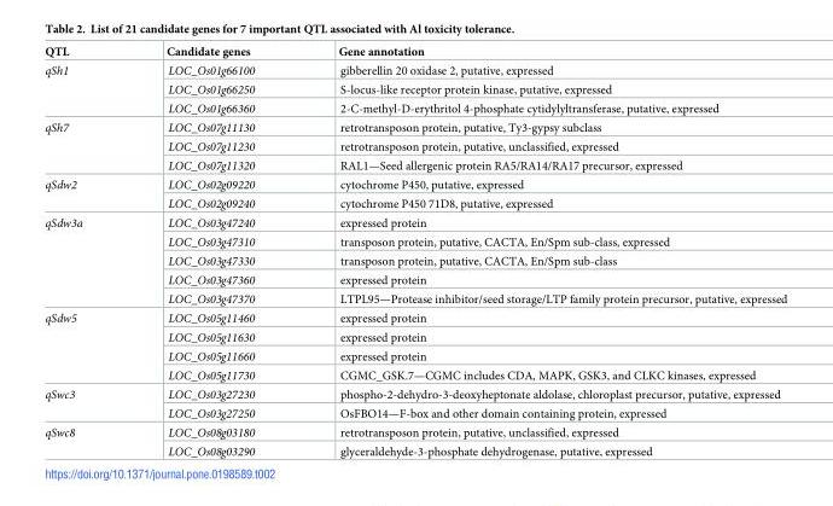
<table><thead><tr><td>QTL</td><td>Candidate genes</td><td>Gene annotation</td></tr></thead><tbody><tr><td rowspan="3">qSh1</td><td>LOC_Os01g66100</td><td>gibberellin 20 oxidase 2, putative, expressed</td></tr><tr><td>LOC_Os01g66250</td><td>S-locus-like receptor protein kinase, putative, expressed</td></tr><tr><td>LOC_Os01g66360</td><td>2-C-methyl-D-erythritol 4-phosphate cytidylyltransferase, putative, expressed</td></tr><tr><td rowspan="3">qSh7</td><td>LOC_Os07g11130</td><td>retrotransposon protein, putative, Ty3-gypsy subclass</td></tr><tr><td>LOC_Os07g11230</td><td>retrotransposon protein, putative, unclassified, expressed</td></tr><tr><td>LOC_Os07g11320</td><td>RAL1—Seed allergenic protein RA5/RA14/RA17 precursor, expressed</td></tr><tr><td rowspan="2">qSdw2</td><td>LOC_Os02g09220</td><td>cytochrome P450, putative, expressed</td></tr><tr><td>LOC_Os02g09240</td><td>cytochrome P450 71D8, putative, expressed</td></tr><tr><td rowspan="5">qSdw3a</td><td>LOC_Os03g47240</td><td>expressed protein</td></tr><tr><td>LOC_Os03g47310</td><td>transposon protein, putative, CACTA, En/Spm sub-class, expressed</td></tr><tr><td>LOC_Os03g47330</td><td>transposon protein, putative, CACTA, En/Spm sub-class</td></tr><tr><td>LOC_Os03g47360</td><td>expressed protein</td></tr><tr><td>LOC_Os03g47370</td><td>LTPL95—Protease inhibitor/seed storage/LTP family protein precursor, putative, expressed</td></tr><tr><td rowspan="4">qSdw5</td><td>LOC_Os05g11460</td><td>expressed protein</td></tr><tr><td>LOC_Os05g11630</td><td>expressed protein</td></tr><tr><td>LOC_Os05g11660</td><td>expressed protein</td></tr><tr><td>LOC_Os05g11730</td><td>CGMC_GSK.7—CGMC includes CDA, MAPK, GSK3, and CLKC kinases, expressed</td></tr><tr><td rowspan="2">qSwc3</td><td>LOC_Os03g27230</td><td>phospho-2-dehydro-3-deoxyheptonate aldolase, chloroplast precursor, putative, expressed</td></tr><tr><td>LOC_Os03g27250</td><td>OsFBO14—F-box and other domain containing protein, expressed</td></tr><tr><td rowspan="2">qSwc8</td><td>LOC_Os08g03180</td><td>retrotransposon protein, putative, unclassified, expressed</td></tr><tr><td>LOC_Os08g03290</td><td>glyceraldehyde-3-phosphate dehydrogenase, putative, expressed</td></tr></tbody></table>